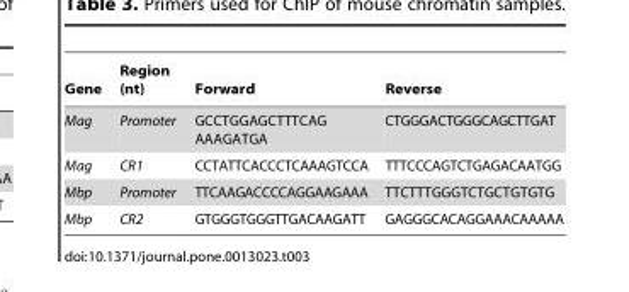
<table><thead><tr><td>Gene</td><td>Region (nt)</td><td>Forward</td><td>Reverse</td></tr></thead><tbody><tr><td>Mag</td><td>Promoter</td><td>GCCTGGAGCTTTCAG AAAGATGA</td><td>CTGGGACTGGGCAGCTTGAT</td></tr><tr><td>Mag</td><td>CR1</td><td>CCTATTCACCCTCAAAGTCCA</td><td>TTTCCCAGTCTGAGACAATGG</td></tr><tr><td>Mbp</td><td>Promoter</td><td>TTCAAGACCCCAGGAAGAAA</td><td>TTCTTTGGGTCTGCTGTGTG</td></tr><tr><td>Mbp</td><td>CR2</td><td>GTGGGTGGGTTGACAAGATT</td><td>GAGGGCACAGGAAACAAAAA</td></tr></tbody></table>